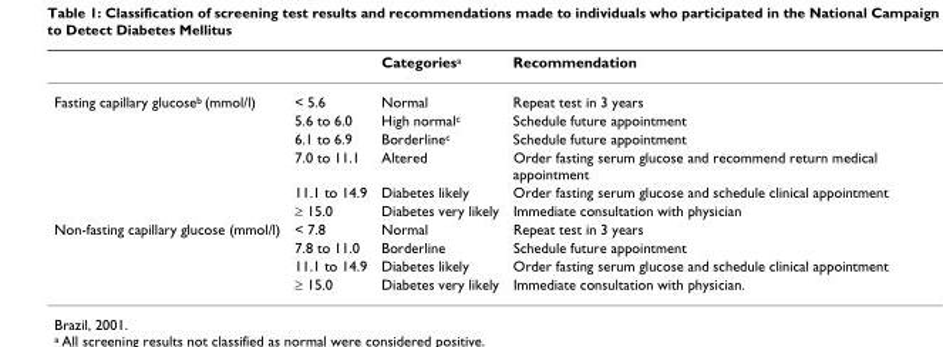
<table><thead><tr><td></td><td></td><td>Categories<sup>a</sup></td><td>Recommendation</td></tr></thead><tbody><tr><td rowspan="6">Fasting capillary glucose<sup>b</sup> (mmol/l)</td><td>&lt; 5.6</td><td>Normal</td><td>Repeat test in 3 years</td></tr><tr><td>5.6 to 6.0</td><td>High normal<sup>c</sup></td><td>Schedule future appointment</td></tr><tr><td>6.1 to 6.9</td><td>Borderline<sup>c</sup></td><td>Schedule future appointment</td></tr><tr><td>7.0 to 11.1</td><td>Altered</td><td>Order fasting serum glucose and recommend return medical appointment</td></tr><tr><td>11.1 to 14.9</td><td>Diabetes likely</td><td>Order fasting serum glucose and schedule clinical appointment</td></tr><tr><td>≥ 15.0</td><td>Diabetes very likely</td><td>Immediate consultation with physician</td></tr><tr><td rowspan="4">Non-fasting capillary glucose (mmol/l)</td><td>&lt; 7.8</td><td>Normal</td><td>Repeat test in 3 years</td></tr><tr><td>7.8 to 11.0</td><td>Borderline</td><td>Schedule future appointment</td></tr><tr><td>11.1 to 14.9</td><td>Diabetes likely</td><td>Order fasting serum glucose and schedule clinical appointment</td></tr><tr><td>≥ 15.0</td><td>Diabetes very likely</td><td>Immediate consultation with physician.</td></tr></tbody></table>